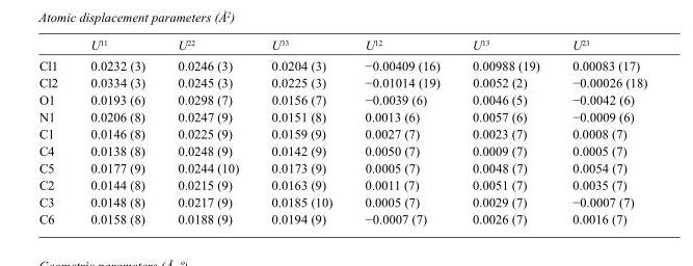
<table><thead><tr><td></td><td>U<sup>11</sup></td><td>U<sup>22</sup></td><td>U<sup>33</sup></td><td>U<sup>12</sup></td><td>U<sup>13</sup></td><td>U<sup>23</sup></td></tr></thead><tbody><tr><td>Cl1</td><td>0.0232 (3)</td><td>0.0246 (3)</td><td>0.0204 (3)</td><td>−0.00409 (16)</td><td>0.00988 (19)</td><td>0.00083 (17)</td></tr><tr><td>Cl2</td><td>0.0334 (3)</td><td>0.0245 (3)</td><td>0.0225 (3)</td><td>−0.01014 (19)</td><td>0.0052 (2)</td><td>−0.00026 (18)</td></tr><tr><td>O1</td><td>0.0193 (6)</td><td>0.0298 (7)</td><td>0.0156 (7)</td><td>−0.0039 (6)</td><td>0.0046 (5)</td><td>−0.0042 (6)</td></tr><tr><td>N1</td><td>0.0206 (8)</td><td>0.0247 (9)</td><td>0.0151 (8)</td><td>0.0013 (6)</td><td>0.0057 (6)</td><td>−0.0009 (6)</td></tr><tr><td>C1</td><td>0.0146 (8)</td><td>0.0225 (9)</td><td>0.0159 (9)</td><td>0.0027 (7)</td><td>0.0023 (7)</td><td>0.0008 (7)</td></tr><tr><td>C4</td><td>0.0138 (8)</td><td>0.0248 (9)</td><td>0.0142 (9)</td><td>0.0050 (7)</td><td>0.0009 (7)</td><td>0.0005 (7)</td></tr><tr><td>C5</td><td>0.0177 (9)</td><td>0.0244 (10)</td><td>0.0173 (9)</td><td>0.0005 (7)</td><td>0.0048 (7)</td><td>0.0054 (7)</td></tr><tr><td>C2</td><td>0.0144 (8)</td><td>0.0215 (9)</td><td>0.0163 (9)</td><td>0.0011 (7)</td><td>0.0051 (7)</td><td>0.0035 (7)</td></tr><tr><td>C3</td><td>0.0148 (8)</td><td>0.0217 (9)</td><td>0.0185 (10)</td><td>0.0005 (7)</td><td>0.0029 (7)</td><td>−0.0007 (7)</td></tr><tr><td>C6</td><td>0.0158 (8)</td><td>0.0188 (9)</td><td>0.0194 (9)</td><td>−0.0007 (7)</td><td>0.0026 (7)</td><td>0.0016 (7)</td></tr></tbody></table>